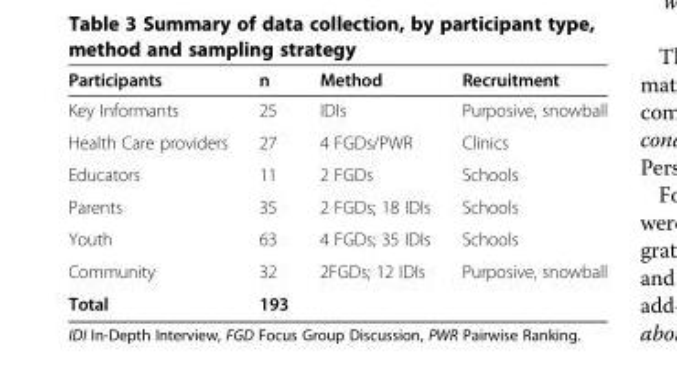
<table><thead><tr><td>Participants</td><td>n</td><td>Method</td><td>Recruitment</td></tr></thead><tbody><tr><td>Key Informants</td><td>25</td><td>IDIs</td><td>Purposive, snowball</td></tr><tr><td>Health Care providers</td><td>27</td><td>4 FGDs/PWR</td><td>Clinics</td></tr><tr><td>Educators</td><td>11</td><td>2 FGDs</td><td>Schools</td></tr><tr><td>Parents</td><td>35</td><td>2 FGDs; 18 IDIs</td><td>Schools</td></tr><tr><td>Youth</td><td>63</td><td>4 FGDs; 35 IDIs</td><td>Schools</td></tr><tr><td>Community</td><td>32</td><td>2FGDs; 12 IDIs</td><td>Purposive, snowball</td></tr><tr><td>Total</td><td>193</td><td></td><td></td></tr></tbody></table>